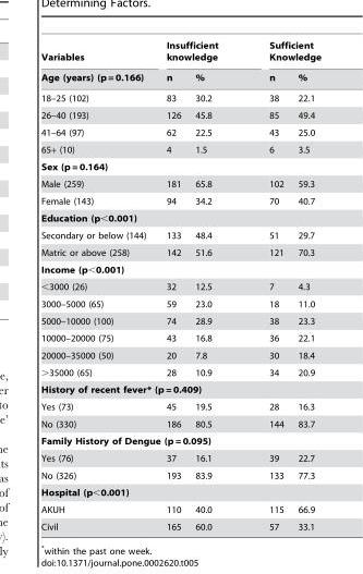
<table><thead><tr><td rowspan="2">Variables Age (years) (p = 0.166)</td><td colspan="2">Insufficient knowledge</td><td colspan="2">Sufficient Knowledge</td></tr><tr><td>n</td><td>%</td><td>n</td><td>%</td></tr></thead><tbody><tr><td>18–25 (102)</td><td>83</td><td>30.2</td><td>38</td><td>22.1</td></tr><tr><td>26–40 (193)</td><td>126</td><td>45.8</td><td>85</td><td>49.4</td></tr><tr><td>41–64 (97)</td><td>62</td><td>22.5</td><td>43</td><td>25.0</td></tr><tr><td>65+ (10)</td><td>4</td><td>1.5</td><td>6</td><td>3.5</td></tr><tr><td colspan="5">Sex (p = 0.164)</td></tr><tr><td>Male (259)</td><td>181</td><td>65.8</td><td>102</td><td>59.3</td></tr><tr><td>Female (143)</td><td>94</td><td>34.2</td><td>70</td><td>40.7</td></tr><tr><td colspan="5">Education (p&lt;0.001)</td></tr><tr><td>Secondary or below (144)</td><td>133</td><td>48.4</td><td>51</td><td>29.7</td></tr><tr><td>Matric or above (258)</td><td>142</td><td>51.6</td><td>121</td><td>70.3</td></tr><tr><td colspan="5">Income (p&lt;0.001)</td></tr><tr><td>&lt;3000 (26)</td><td>32</td><td>12.5</td><td>7</td><td>4.3</td></tr><tr><td>3000–5000 (65)</td><td>59</td><td>23.0</td><td>18</td><td>11.0</td></tr><tr><td>5000–10000 (100)</td><td>74</td><td>28.9</td><td>38</td><td>23.3</td></tr><tr><td>10000–20000 (75)</td><td>43</td><td>16.8</td><td>36</td><td>22.1</td></tr><tr><td>20000–35000 (50)</td><td>20</td><td>7.8</td><td>30</td><td>18.4</td></tr><tr><td>&gt;35000 (65)</td><td>28</td><td>10.9</td><td>34</td><td>20.9</td></tr><tr><td colspan="5">History of recent fever* (p = 0.409)</td></tr><tr><td>Yes (73)</td><td>45</td><td>19.5</td><td>28</td><td>16.3</td></tr><tr><td>No (330)</td><td>186</td><td>80.5</td><td>144</td><td>83.7</td></tr><tr><td colspan="5">Family History of Dengue (p = 0.095)</td></tr><tr><td>Yes (76)</td><td>37</td><td>16.1</td><td>39</td><td>22.7</td></tr><tr><td>No (326)</td><td>193</td><td>83.9</td><td>133</td><td>77.3</td></tr><tr><td colspan="5">Hospital (p&lt;0.001)</td></tr><tr><td>AKUH</td><td>110</td><td>40.0</td><td>115</td><td>66.9</td></tr><tr><td>Civil</td><td>165</td><td>60.0</td><td>57</td><td>33.1</td></tr></tbody></table>